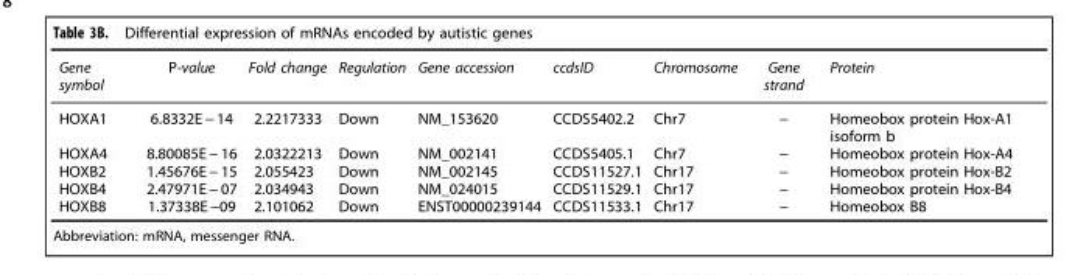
<table><thead><tr><td>Gene symbol</td><td>P-value</td><td>Fold change</td><td>Regulation</td><td>Gene accession</td><td>ccdsID</td><td>Chromosome</td><td>Gene strand</td><td>Protein</td></tr></thead><tbody><tr><td>HOXA1</td><td>6.8332E − 14</td><td>2.2217333</td><td>Down</td><td>NM_153620</td><td>CCDS5402.2</td><td>Chr7</td><td>−</td><td>Homeobox protein Hox-A1 isoform b</td></tr><tr><td>HOXA4</td><td>8.80085E − 16</td><td>2.0322213</td><td>Down</td><td>NM_002141</td><td>CCDS5405.1</td><td>Chr7</td><td>−</td><td>Homeobox protein Hox-A4</td></tr><tr><td>HOXB2</td><td>1.45676E − 15</td><td>2.055423</td><td>Down</td><td>NM_002145</td><td>CCDS11527.1</td><td>Chr17</td><td>−</td><td>Homeobox protein Hox-B2</td></tr><tr><td>HOXB4</td><td>2.47971E − 07</td><td>2.034943</td><td>Down</td><td>NM_024015</td><td>CCDS11529.1</td><td>Chr17</td><td>−</td><td>Homeobox protein Hox-B4</td></tr><tr><td>HOXB8</td><td>1.37338E −09</td><td>2.101062</td><td>Down</td><td>ENST00000239144</td><td>CCDS11533.1</td><td>Chr17</td><td>−</td><td>Homeobox B8</td></tr></tbody></table>